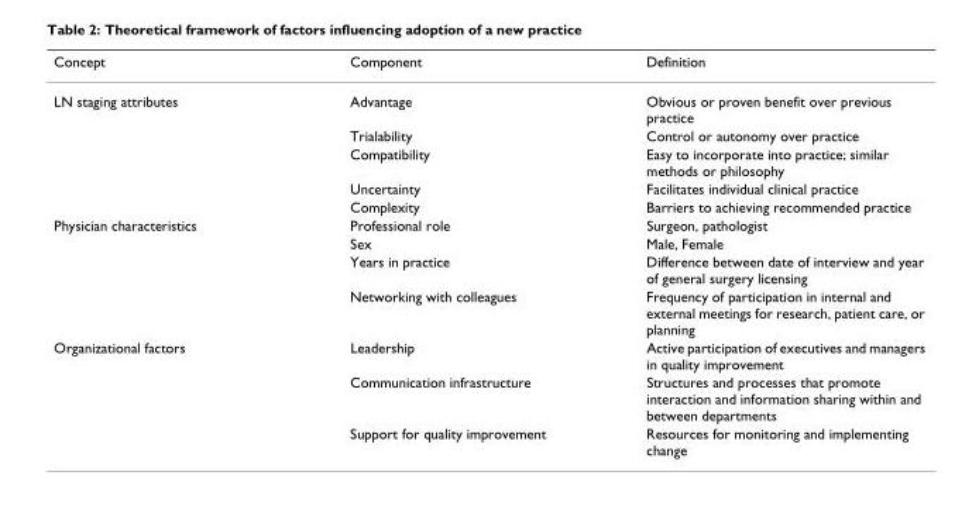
<table><thead><tr><td>Concept</td><td>Component</td><td>Definition</td></tr></thead><tbody><tr><td rowspan="5">LN staging attributes</td><td>Advantage</td><td>Obvious or proven benefit over previous practice</td></tr><tr><td>Trialability</td><td>Control or autonomy over practice</td></tr><tr><td>Compatibility</td><td>Easy to incorporate into practice; similar methods or philosophy</td></tr><tr><td>Uncertainty</td><td>Facilitates individual clinical practice</td></tr><tr><td>Complexity</td><td>Barriers to achieving recommended practice</td></tr><tr><td rowspan="4">Physician characteristics</td><td>Professional role</td><td>Surgeon, pathologist</td></tr><tr><td>Sex</td><td>Male, Female</td></tr><tr><td>Years in practice</td><td>Difference between date of interview and year of general surgery licensing</td></tr><tr><td>Networking with colleagues</td><td>Frequency of participation in internal and external meetings for research, patient care, or planning</td></tr><tr><td rowspan="3">Organizational factors</td><td>Leadership</td><td>Active participation of executives and managers in quality improvement</td></tr><tr><td>Communication infrastructure</td><td>Structures and processes that promote interaction and information sharing within and between departments</td></tr><tr><td>Support for quality improvement</td><td>Resources for monitoring and implementing change</td></tr></tbody></table>